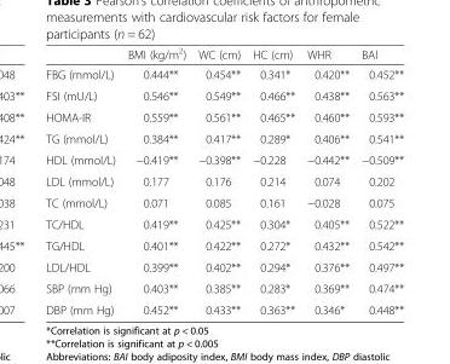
<table><thead><tr><td></td><td>BMI (kg/m<sup>2</sup>)</td><td>WC (cm)</td><td>HC (cm)</td><td>WHR</td><td>BAI</td></tr></thead><tbody><tr><td>FBG (mmol/L)</td><td>0.444**</td><td>0.454**</td><td>0.341*</td><td>0.420**</td><td>0.452**</td></tr><tr><td>FSI (mU/L)</td><td>0.546**</td><td>0.549**</td><td>0.466**</td><td>0.438**</td><td>0.563**</td></tr><tr><td>HOMA-IR</td><td>0.559**</td><td>0.561**</td><td>0.465**</td><td>0.460**</td><td>0.593**</td></tr><tr><td>TG (mmol/L)</td><td>0.384**</td><td>0.417**</td><td>0.289*</td><td>0.406**</td><td>0.541**</td></tr><tr><td>HDL (mmol/L)</td><td>−0.419**</td><td>−0.398**</td><td>−0.228</td><td>−0.442**</td><td>−0.509**</td></tr><tr><td>LDL (mmol/L)</td><td>0.177</td><td>0.176</td><td>0.214</td><td>0.074</td><td>0.202</td></tr><tr><td>TC (mmol/L)</td><td>0.071</td><td>0.085</td><td>0.161</td><td>−0.028</td><td>0.075</td></tr><tr><td>TC/HDL</td><td>0.419**</td><td>0.425**</td><td>0.304*</td><td>0.405**</td><td>0.522**</td></tr><tr><td>TG/HDL</td><td>0.401**</td><td>0.422**</td><td>0.272*</td><td>0.432**</td><td>0.542**</td></tr><tr><td>LDL/HDL</td><td>0.399**</td><td>0.402**</td><td>0.294*</td><td>0.376**</td><td>0.497**</td></tr><tr><td>SBP (mm Hg)</td><td>0.403**</td><td>0.385**</td><td>0.283*</td><td>0.369**</td><td>0.474**</td></tr><tr><td>DBP (mm Hg)</td><td>0.452**</td><td>0.433**</td><td>0.363**</td><td>0.346*</td><td>0.448**</td></tr></tbody></table>